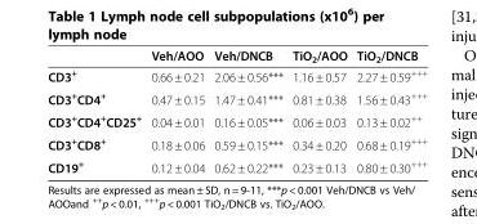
<table><thead><tr><td></td><td>Veh/AOO</td><td>Veh/DNCB</td><td>TiO<sub>2</sub>/AOO</td><td>TiO<sub>2</sub>/DNCB</td></tr></thead><tbody><tr><td>CD3<sup>+</sup></td><td>0.66 ± 0.21</td><td>2.06 ± 0.56***</td><td>1.16 ± 0.57</td><td>2.27 ± 0.59<sup>+++</sup></td></tr><tr><td>CD3<sup>+</sup>CD4<sup>+</sup></td><td>0.47 ± 0.15</td><td>1.47 ± 0.41***</td><td>0.81 ± 0.38</td><td>1.56 ± 0.43<sup>+++</sup></td></tr><tr><td>CD3<sup>+</sup>CD4<sup>+</sup>CD25<sup>+</sup></td><td>0.04 ± 0.01</td><td>0.16 ± 0.05***</td><td>0.06 ± 0.03</td><td>0.13 ± 0.02<sup>++</sup></td></tr><tr><td>CD3<sup>+</sup>CD8<sup>+</sup></td><td>0.18 ± 0.06</td><td>0.59 ± 0.15***</td><td>0.34 ± 0.20</td><td>0.68 ± 0.19<sup>+++</sup></td></tr><tr><td>CD19<sup>+</sup></td><td>0.12 ± 0.04</td><td>0.62 ± 0.22***</td><td>0.23 ± 0.13</td><td>0.80 ± 0.30<sup>+++</sup></td></tr></tbody></table>